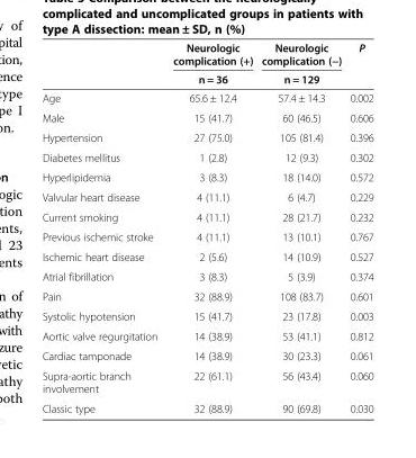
<table><thead><tr><td rowspan="2"></td><td rowspan="2">Neurologic complication (+) n = 36</td><td rowspan="2">Neurologic complication (−) n = 129</td><td rowspan="2">P</td></tr><tr></tr></thead><tbody><tr><td>Age</td><td>65.6 ± 12.4</td><td>57.4 ± 14.3</td><td>0.002</td></tr><tr><td>Male</td><td>15 (41.7)</td><td>60 (46.5)</td><td>0.606</td></tr><tr><td>Hypertension</td><td>27 (75.0)</td><td>105 (81.4)</td><td>0.396</td></tr><tr><td>Diabetes mellitus</td><td>1 (2.8)</td><td>12 (9.3)</td><td>0.302</td></tr><tr><td>Hyperlipidemia</td><td>3 (8.3)</td><td>18 (14.0)</td><td>0.572</td></tr><tr><td>Valvular heart disease</td><td>4 (11.1)</td><td>6 (4.7)</td><td>0.229</td></tr><tr><td>Current smoking</td><td>4 (11.1)</td><td>28 (21.7)</td><td>0.232</td></tr><tr><td>Previous ischemic stroke</td><td>4 (11.1)</td><td>13 (10.1)</td><td>0.767</td></tr><tr><td>Ischemic heart disease</td><td>2 (5.6)</td><td>14 (10.9)</td><td>0.527</td></tr><tr><td>Atrial fibrillation</td><td>3 (8.3)</td><td>5 (3.9)</td><td>0.374</td></tr><tr><td>Pain</td><td>32 (88.9)</td><td>108 (83.7)</td><td>0.601</td></tr><tr><td>Systolic hypotension</td><td>15 (41.7)</td><td>23 (17.8)</td><td>0.003</td></tr><tr><td>Aortic valve regurgitation</td><td>14 (38.9)</td><td>53 (41.1)</td><td>0.812</td></tr><tr><td>Cardiac tamponade</td><td>14 (38.9)</td><td>30 (23.3)</td><td>0.061</td></tr><tr><td>Supra-aortic branch involvement</td><td>22 (61.1)</td><td>56 (43.4)</td><td>0.060</td></tr><tr><td>Classic type</td><td>32 (88.9)</td><td>90 (69.8)</td><td>0.030</td></tr></tbody></table>